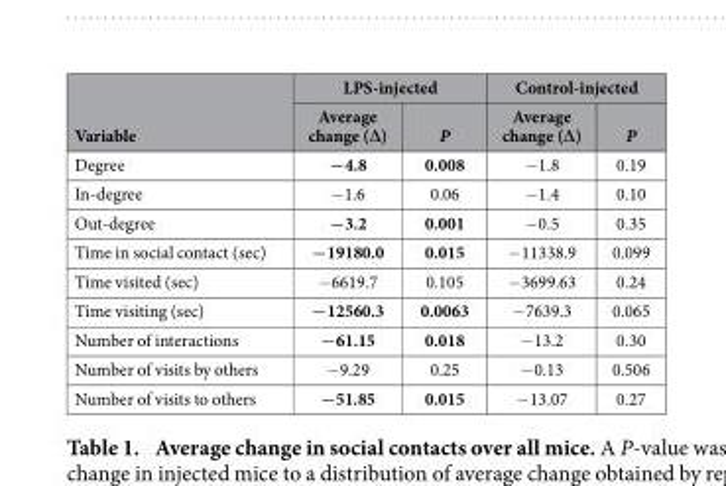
<table><thead><tr><td rowspan="2">Variable</td><td colspan="2">LPS-injected</td><td colspan="2">Control-injected</td></tr><tr><td>Average change (∆ )</td><td>P</td><td>Average change (∆ )</td><td>P</td></tr></thead><tbody><tr><td>Degree</td><td>−4.8</td><td>0.008</td><td>− 1.8</td><td>0.19</td></tr><tr><td>In-degree</td><td>− 1.6</td><td>0.06</td><td>− 1.4</td><td>0.10</td></tr><tr><td>Out-degree</td><td>−3.2</td><td>0.001</td><td>− 0.5</td><td>0.35</td></tr><tr><td>Time in social contact (sec)</td><td>−19180.0</td><td>0.015</td><td>− 11338.9</td><td>0.099</td></tr><tr><td>Time visited (sec)</td><td>− 6619.7</td><td>0.105</td><td>− 3699.63</td><td>0.24</td></tr><tr><td>Time visiting (sec)</td><td>−12560.3</td><td>0.0063</td><td>− 7639.3</td><td>0.065</td></tr><tr><td>Number of interactions</td><td>−61.15</td><td>0.018</td><td>− 13.2</td><td>0.30</td></tr><tr><td>Number of visits by others</td><td>− 9.29</td><td>0.25</td><td>− 0.13</td><td>0.506</td></tr><tr><td>Number of visits to others</td><td>−51.85</td><td>0.015</td><td>− 13.07</td><td>0.27</td></tr></tbody></table>